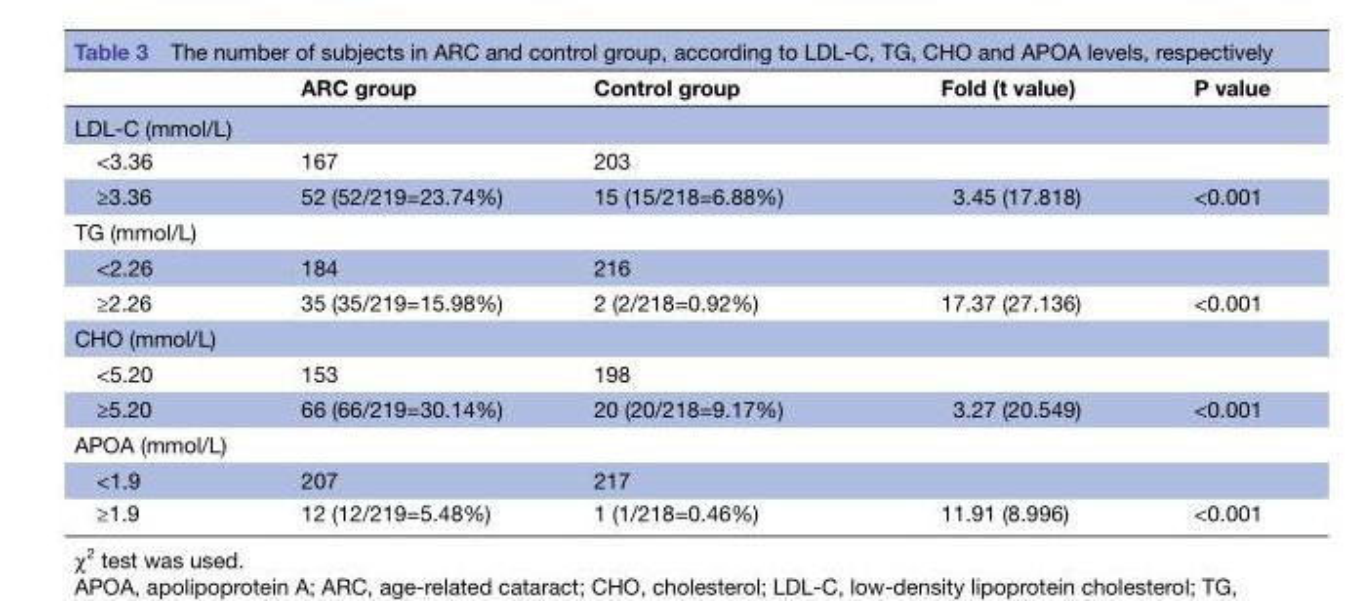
<table><thead><tr><td></td><td>ARC group</td><td>Control group</td><td>Fold (t value)</td><td>P value</td></tr></thead><tbody><tr><td colspan="5">LDL-C (mmol/L)</td></tr><tr><td>&lt;3.36</td><td>167</td><td>203</td><td></td><td></td></tr><tr><td>≥3.36</td><td>52 (52/219=23.74%)</td><td>15 (15/218=6.88%)</td><td>3.45 (17.818)</td><td>&lt;0.001</td></tr><tr><td colspan="5">TG (mmol/L)</td></tr><tr><td>&lt;2.26</td><td>184</td><td>216</td><td></td><td></td></tr><tr><td>≥2.26</td><td>35 (35/219=15.98%)</td><td>2 (2/218=0.92%)</td><td>17.37 (27.136)</td><td>&lt;0.001</td></tr><tr><td colspan="5">CHO (mmol/L)</td></tr><tr><td>&lt;5.20</td><td>153</td><td>198</td><td></td><td></td></tr><tr><td>≥5.20</td><td>66 (66/219=30.14%)</td><td>20 (20/218=9.17%)</td><td>3.27 (20.549)</td><td>&lt;0.001</td></tr><tr><td colspan="5">APOA (mmol/L)</td></tr><tr><td>&lt;1.9</td><td>207</td><td>217</td><td></td><td></td></tr><tr><td>≥1.9</td><td>12 (12/219=5.48%)</td><td>1 (1/218=0.46%)</td><td>11.91 (8.996)</td><td>&lt;0.001</td></tr></tbody></table>